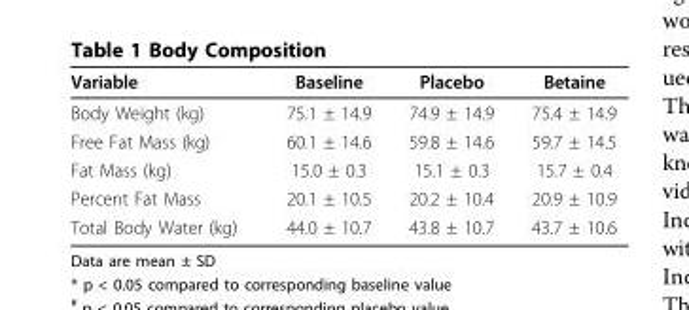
<table><thead><tr><td>Variable</td><td>Baseline</td><td>Placebo</td><td>Betaine</td></tr></thead><tbody><tr><td>Body Weight (kg)</td><td>75.1 ± 14.9</td><td>74.9 ± 14.9</td><td>75.4 ± 14.9</td></tr><tr><td>Free Fat Mass (kg)</td><td>60.1 ± 14.6</td><td>59.8 ± 14.6</td><td>59.7 ± 14.5</td></tr><tr><td>Fat Mass (kg)</td><td>15.0 ± 0.3</td><td>15.1 ± 0.3</td><td>15.7 ± 0.4</td></tr><tr><td>Percent Fat Mass</td><td>20.1 ± 10.5</td><td>20.2 ± 10.4</td><td>20.9 ± 10.9</td></tr><tr><td>Total Body Water (kg)</td><td>44.0 ± 10.7</td><td>43.8 ± 10.7</td><td>43.7 ± 10.6</td></tr></tbody></table>